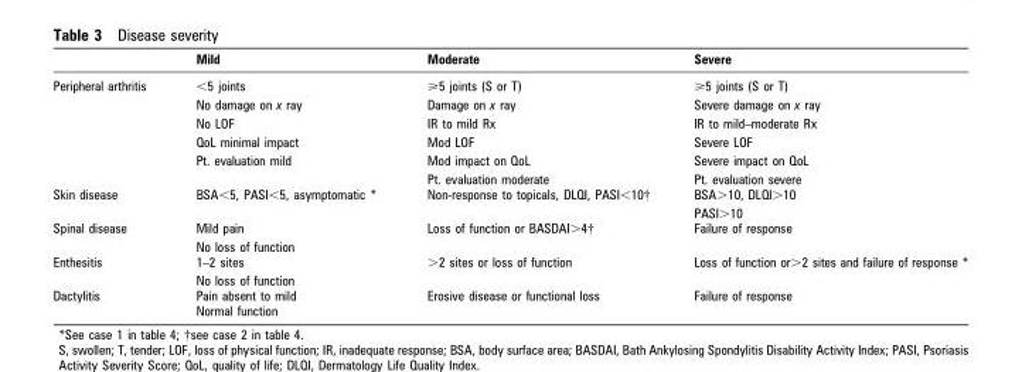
<table><thead><tr><td></td><td>Mild</td><td>Moderate</td><td>Severe</td></tr></thead><tbody><tr><td>Peripheral arthritis</td><td>&lt;5 joints No damage on x ray No LOF QoL minimal impact Pt. evaluation mild</td><td>&gt;5 joints (S or T) Damage on x ray IR to mild Rx Mod LOF Mod impact on QoL Pt. evaluation moderate</td><td>&gt;5 joints (S or T) Severe damage on x ray IR to mild–moderate Rx Severe LOF Severe impact on QoL Pt. evaluation severe</td></tr><tr><td>Skin disease</td><td>BSA&lt;5, PASI&lt;5, asymptomatic *</td><td>Non-response to topicals, DLQI, PASI&lt;10†</td><td>BSA&gt;10, DLQI&gt;10 PASI&gt;10</td></tr><tr><td>Spinal disease</td><td>Mild pain No loss of function</td><td>Loss of function or BASDAI&gt;4†</td><td>Failure of response</td></tr><tr><td>Enthesitis</td><td>1–2 sites No loss of function</td><td>&gt;2 sites or loss of function</td><td>Loss of function or&gt;2 sites and failure of response *</td></tr><tr><td>Dactylitis</td><td>Pain absent to mild Normal function</td><td>Erosive disease or functional loss</td><td>Failure of response</td></tr></tbody></table>